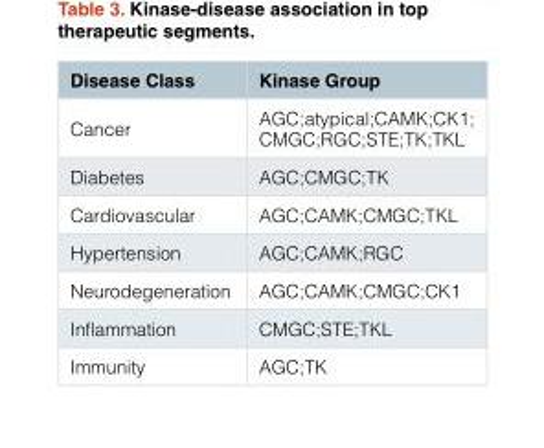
<table><thead><tr><td>Disease Class</td><td>Kinase Group</td></tr></thead><tbody><tr><td>Cancer</td><td>AGC;atypical;CAMK;CK1; CMGC;RGC;STE;TK;TKL</td></tr><tr><td>Diabetes</td><td>AGC;CMGC;TK</td></tr><tr><td>Cardiovascular</td><td>AGC;CAMK;CMGC;TKL</td></tr><tr><td>Hypertension</td><td>AGC;CAMK;RGC</td></tr><tr><td>Neurodegeneration</td><td>AGC;CAMK;CMGC;CK1</td></tr><tr><td>Inflammation</td><td>CMGC;STE;TKL</td></tr><tr><td>Immunity</td><td>AGC;TK</td></tr></tbody></table>